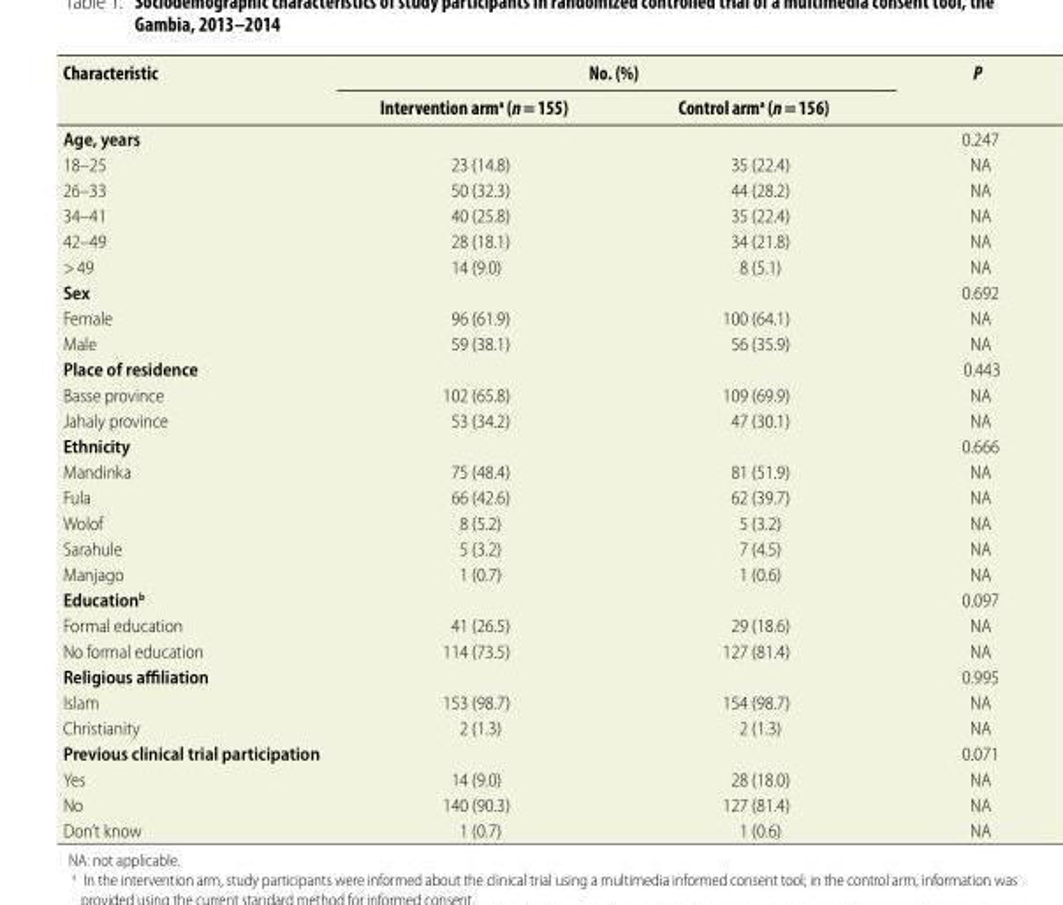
<table><thead><tr><td rowspan="2">Characteristic</td><td colspan="2">No. (%)</td><td rowspan="2">P</td></tr><tr><td>Intervention arm<sup>a</sup> (n = 155)</td><td>Control arm<sup>a</sup> (n = 156)</td></tr></thead><tbody><tr><td>Age, years</td><td></td><td></td><td>0.247</td></tr><tr><td>18–25</td><td>23 (14.8)</td><td>35 (22.4)</td><td>NA</td></tr><tr><td>26–33</td><td>50 (32.3)</td><td>44 (28.2)</td><td>NA</td></tr><tr><td>34–41</td><td>40 (25.8)</td><td>35 (22.4)</td><td>NA</td></tr><tr><td>42–49</td><td>28 (18.1)</td><td>34 (21.8)</td><td>NA</td></tr><tr><td>&gt; 49</td><td>14 (9.0)</td><td>8 (5.1)</td><td>NA</td></tr><tr><td>Sex</td><td></td><td></td><td>0.692</td></tr><tr><td>Female</td><td>96 (61.9)</td><td>100 (64.1)</td><td>NA</td></tr><tr><td>Male</td><td>59 (38.1)</td><td>56 (35.9)</td><td>NA</td></tr><tr><td>Place of residence</td><td></td><td></td><td>0.443</td></tr><tr><td>Basse province</td><td>102 (65.8)</td><td>109 (69.9)</td><td>NA</td></tr><tr><td>Jahaly province</td><td>53 (34.2)</td><td>47 (30.1)</td><td>NA</td></tr><tr><td>Ethnicity</td><td></td><td></td><td>0.666</td></tr><tr><td>Mandinka</td><td>75 (48.4)</td><td>81 (51.9)</td><td>NA</td></tr><tr><td>Fula</td><td>66 (42.6)</td><td>62 (39.7)</td><td>NA</td></tr><tr><td>Wolof</td><td>8 (5.2)</td><td>5 (3.2)</td><td>NA</td></tr><tr><td>Sarahule</td><td>5 (3.2)</td><td>7 (4.5)</td><td>NA</td></tr><tr><td>Manjago</td><td>1 (0.7)</td><td>1 (0.6)</td><td>NA</td></tr><tr><td>Education<sup>b</sup></td><td></td><td></td><td>0.097</td></tr><tr><td>Formal education</td><td>41 (26.5)</td><td>29 (18.6)</td><td>NA</td></tr><tr><td>No formal education</td><td>114 (73.5)</td><td>127 (81.4)</td><td>NA</td></tr><tr><td>Religious affiliation</td><td></td><td></td><td>0.995</td></tr><tr><td>Islam</td><td>153 (98.7)</td><td>154 (98.7)</td><td>NA</td></tr><tr><td>Christianity</td><td>2 (1.3)</td><td>2 (1.3)</td><td>NA</td></tr><tr><td>Previous clinical trial participation</td><td></td><td></td><td>0.071</td></tr><tr><td>Yes</td><td>14 (9.0)</td><td>28 (18.0)</td><td>NA</td></tr><tr><td>No</td><td>140 (90.3)</td><td>127 (81.4)</td><td>NA</td></tr><tr><td>Don’t know</td><td>1 (0.7)</td><td>1 (0.6)</td><td>NA</td></tr></tbody></table>